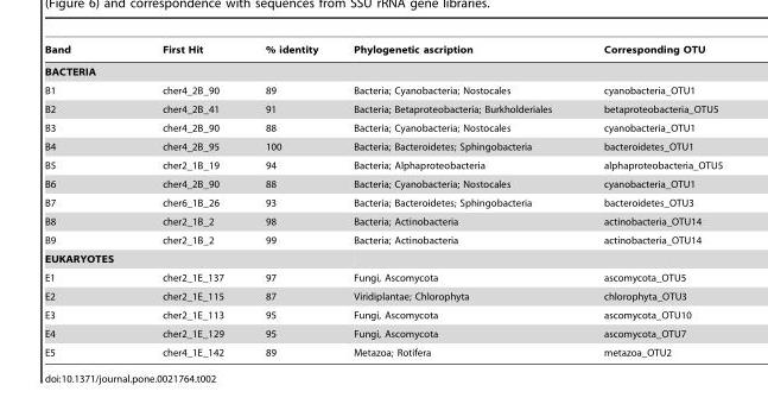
<table><thead><tr><td>Band</td><td>First Hit</td><td>% identity</td><td>Phylogenetic ascription</td><td>Corresponding OTU</td></tr></thead><tbody><tr><td colspan="5">BACTERIA</td></tr><tr><td>B1</td><td>cher4_2B_90</td><td>89</td><td>Bacteria; Cyanobacteria; Nostocales</td><td>cyanobacteria_OTU1</td></tr><tr><td>B2</td><td>cher4_2B_41</td><td>91</td><td>Bacteria; Betaproteobacteria; Burkholderiales</td><td>betaproteobacteria_OTU5</td></tr><tr><td>B3</td><td>cher4_2B_90</td><td>88</td><td>Bacteria; Cyanobacteria; Nostocales</td><td>cyanobacteria_OTU1</td></tr><tr><td>B4</td><td>cher4_2B_95</td><td>100</td><td>Bacteria; Bacteroidetes; Sphingobacteria</td><td>bacteroidetes_OTU1</td></tr><tr><td>B5</td><td>cher2_1B_19</td><td>94</td><td>Bacteria; Alphaproteobacteria</td><td>alphaproteobacteria_OTU5</td></tr><tr><td>B6</td><td>cher4_2B_90</td><td>88</td><td>Bacteria; Cyanobacteria; Nostocales</td><td>cyanobacteria_OTU1</td></tr><tr><td>B7</td><td>cher6_1B_26</td><td>93</td><td>Bacteria; Bacteroidetes; Sphingobacteria</td><td>bacteroidetes_OTU3</td></tr><tr><td>B8</td><td>cher2_1B_2</td><td>98</td><td>Bacteria; Actinobacteria</td><td>actinobacteria_OTU14</td></tr><tr><td>B9</td><td>cher2_1B_2</td><td>99</td><td>Bacteria; Actinobacteria</td><td>actinobacteria_OTU14</td></tr><tr><td colspan="5">EUKARYOTES</td></tr><tr><td>E1</td><td>cher2_1E_137</td><td>97</td><td>Fungi, Ascomycota</td><td>ascomycota_OTU5</td></tr><tr><td>E2</td><td>cher2_1E_115</td><td>87</td><td>Viridiplantae; Chlorophyta</td><td>chlorophyta_OTU3</td></tr><tr><td>E3</td><td>cher2_1E_113</td><td>95</td><td>Fungi, Ascomycota</td><td>ascomycota_OTU10</td></tr><tr><td>E4</td><td>cher2_1E_129</td><td>95</td><td>Fungi, Ascomycota</td><td>ascomycota_OTU7</td></tr><tr><td>E5</td><td>cher4_1E_142</td><td>89</td><td>Metazoa; Rotifera</td><td>metazoa_OTU2</td></tr></tbody></table>